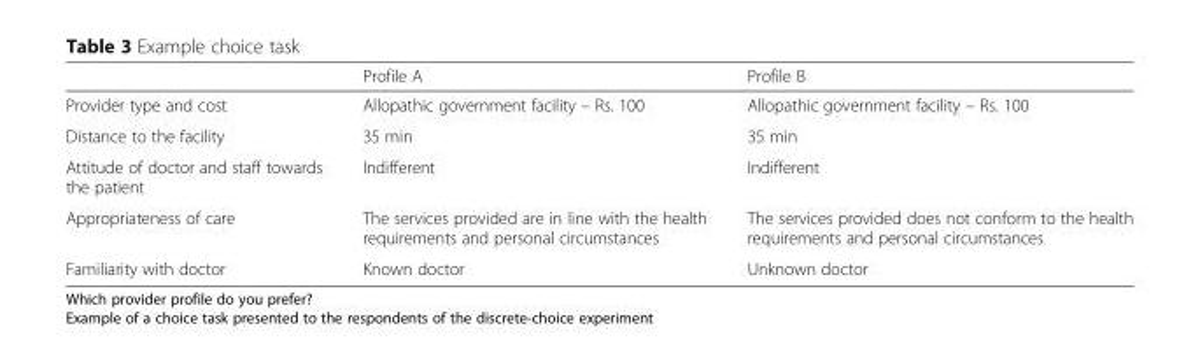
<table><thead><tr><td></td><td>Profile A</td><td>Profile B</td></tr></thead><tbody><tr><td>Provider type and cost</td><td>Allopathic government facility – Rs. 100</td><td>Allopathic government facility – Rs. 100</td></tr><tr><td>Distance to the facility</td><td>35 min</td><td>35 min</td></tr><tr><td>Attitude of doctor and staff towards the patient</td><td>Indifferent</td><td>Indifferent</td></tr><tr><td>Appropriateness of care</td><td>The services provided are in line with the health requirements and personal circumstances</td><td>The services provided does not conform to the health requirements and personal circumstances</td></tr><tr><td>Familiarity with doctor</td><td>Known doctor</td><td>Unknown doctor</td></tr></tbody></table>